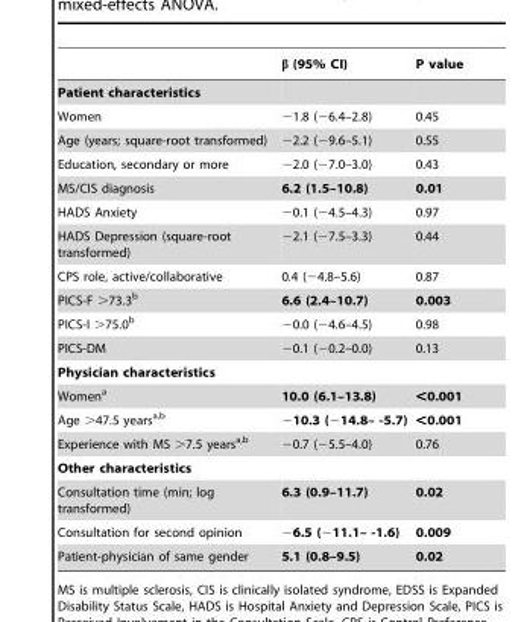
<table><thead><tr><td></td><td>β (95% CI)</td><td>P value</td></tr></thead><tbody><tr><td colspan="3">Patient characteristics</td></tr><tr><td>Women</td><td>−1.8 (−6.4–2.8)</td><td>0.45</td></tr><tr><td>Age (years; square-root transformed)</td><td>−2.2 (−9.6–5.1)</td><td>0.55</td></tr><tr><td>Education, secondary or more</td><td>−2.0 (−7.0–3.0)</td><td>0.43</td></tr><tr><td>MS/CIS diagnosis</td><td>6.2 (1.5–10.8)</td><td>0.01</td></tr><tr><td>HADS Anxiety</td><td>−0.1 (−4.5–4.3)</td><td>0.97</td></tr><tr><td>HADS Depression (square-root transformed)</td><td>−2.1 (−7.5–3.3)</td><td>0.44</td></tr><tr><td>CPS role, active/collaborative</td><td>0.4 (−4.8–5.6)</td><td>0.87</td></tr><tr><td>PICS-F &gt;73.3<sup>b</sup></td><td>6.6 (2.4–10.7)</td><td>0.003</td></tr><tr><td>PICS-I &gt;75.0<sup>b</sup></td><td>−0.0 (−4.6–4.5)</td><td>0.98</td></tr><tr><td>PICS-DM</td><td>−0.1 (−0.2–0.0)</td><td>0.13</td></tr><tr><td colspan="3">Physician characteristics</td></tr><tr><td>Women<sup>a</sup></td><td>10.0 (6.1–13.8)</td><td>&lt;0.001</td></tr><tr><td>Age &gt;47.5 years<sup>a,b</sup></td><td>−10.3 (−14.8– -5.7)</td><td>&lt;0.001</td></tr><tr><td>Experience with MS &gt;7.5 years<sup>a,b</sup></td><td>−0.7 (−5.5–4.0)</td><td>0.76</td></tr><tr><td colspan="3">Other characteristics</td></tr><tr><td>Consultation time (min; log transformed)</td><td>6.3 (0.9–11.7)</td><td>0.02</td></tr><tr><td>Consultation for second opinion</td><td>−6.5 (−11.1– -1.6)</td><td>0.009</td></tr><tr><td>Patient-physician of same gender</td><td>5.1 (0.8–9.5)</td><td>0.02</td></tr></tbody></table>